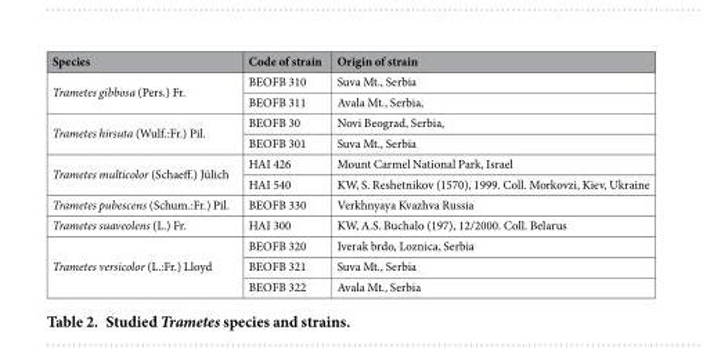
<table><thead><tr><td>Species</td><td>Code of strain</td><td>Origin of strain</td></tr></thead><tbody><tr><td rowspan="2">Trametes gibbosa (Pers.) Fr.</td><td>BEOFB 310</td><td>Suva Mt., Serbia</td></tr><tr><td>BEOFB 311</td><td>Avala Mt., Serbia,</td></tr><tr><td rowspan="2">Trametes hirsuta (Wulf.:Fr.) Pil.</td><td>BEOFB 30</td><td>Novi Beograd, Serbia,</td></tr><tr><td>BEOFB 301</td><td>Suva Mt., Serbia</td></tr><tr><td rowspan="2">Trametes multicolor (Schaeff.) Jülich</td><td>HAI 426</td><td>Mount Carmel National Park, Israel</td></tr><tr><td>HAI 540</td><td>KW, S. Reshetnikov (1570), 1999. Coll. Morkovzi, Kiev, Ukraine</td></tr><tr><td>Trametes pubescens (Schum.:Fr.) Pil.</td><td>BEOFB 330</td><td>Verkhnyaya Kvazhva Russia</td></tr><tr><td>Trametes suaveolens (L.) Fr.</td><td>HAI 300</td><td>KW, A.S. Buchalo (197), 12/2000. Coll. Belarus</td></tr><tr><td rowspan="3">Trametes versicolor (L.:Fr.) Lloyd</td><td>BEOFB 320</td><td>Iverak brdo, Loznica, Serbia</td></tr><tr><td>BEOFB 321</td><td>Suva Mt., Serbia</td></tr><tr><td>BEOFB 322</td><td>Avala Mt., Serbia</td></tr></tbody></table>